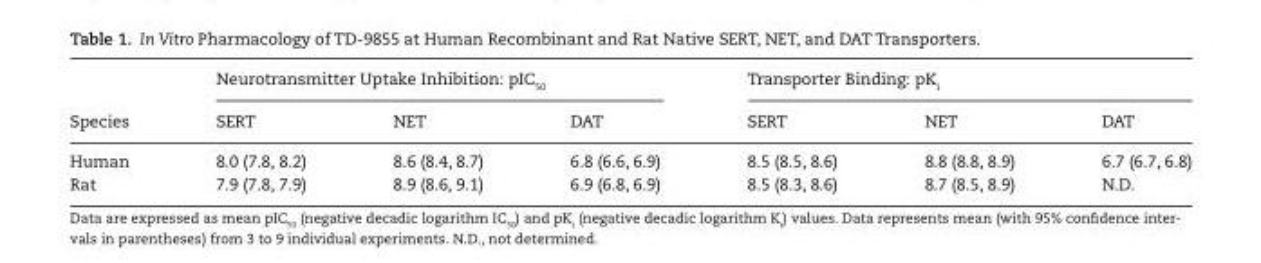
<table><thead><tr><td rowspan="2">Species</td><td colspan="3">Neurotransmitter Uptake Inhibition: pIC<sub>50</sub></td><td colspan="3">Transporter Binding: pK<sub>i</sub></td></tr><tr><td>SERT</td><td>NET</td><td>DAT</td><td>SERT</td><td>NET</td><td>DAT</td></tr></thead><tbody><tr><td>Human</td><td>8.0 (7.8, 8.2)</td><td>8.6 (8.4, 8.7)</td><td>6.8 (6.6, 6.9)</td><td>8.5 (8.5, 8.6)</td><td>8.8 (8.8, 8.9)</td><td>6.7 (6.7, 6.8)</td></tr><tr><td>Rat</td><td>7.9 (7.8, 7.9)</td><td>8.9 (8.6, 9.1)</td><td>6.9 (6.8, 6.9)</td><td>8.5 (8.3, 8.6)</td><td>8.7 (8.5, 8.9)</td><td>N.D.</td></tr></tbody></table>